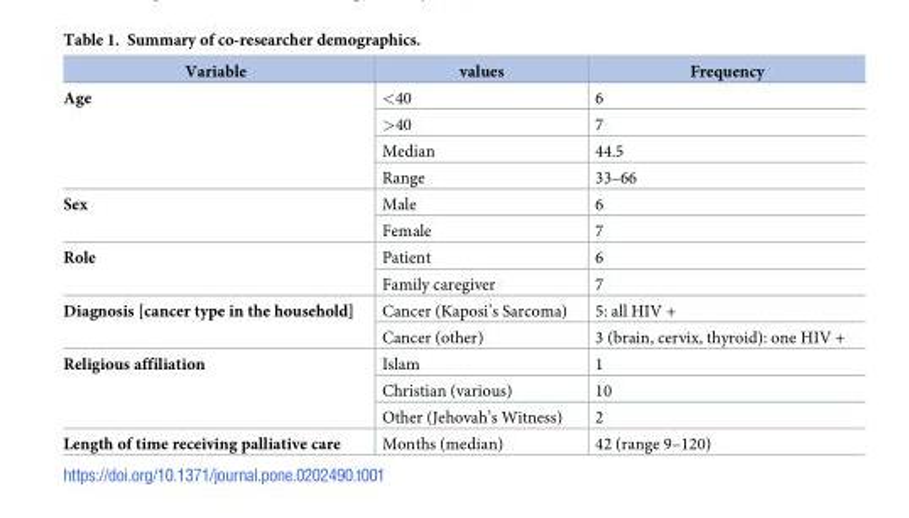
<table><thead><tr><td>Variable</td><td>values</td><td>Frequency</td></tr></thead><tbody><tr><td rowspan="4">Age</td><td>&lt;40</td><td>6</td></tr><tr><td>&gt;40</td><td>7</td></tr><tr><td>Median</td><td>44.5</td></tr><tr><td>Range</td><td>33–66</td></tr><tr><td rowspan="2">Sex</td><td>Male</td><td>6</td></tr><tr><td>Female</td><td>7</td></tr><tr><td rowspan="2">Role</td><td>Patient</td><td>6</td></tr><tr><td>Family caregiver</td><td>7</td></tr><tr><td rowspan="2">Diagnosis [cancer type in the household]</td><td>Cancer (Kaposi’s Sarcoma)</td><td>5: all HIV +</td></tr><tr><td>Cancer (other)</td><td>3 (brain, cervix, thyroid): one HIV +</td></tr><tr><td rowspan="3">Religious affiliation</td><td>Islam</td><td>1</td></tr><tr><td>Christian (various)</td><td>10</td></tr><tr><td>Other (Jehovah’s Witness)</td><td>2</td></tr><tr><td>Length of time receiving palliative care</td><td>Months (median)</td><td>42 (range 9–120)</td></tr></tbody></table>